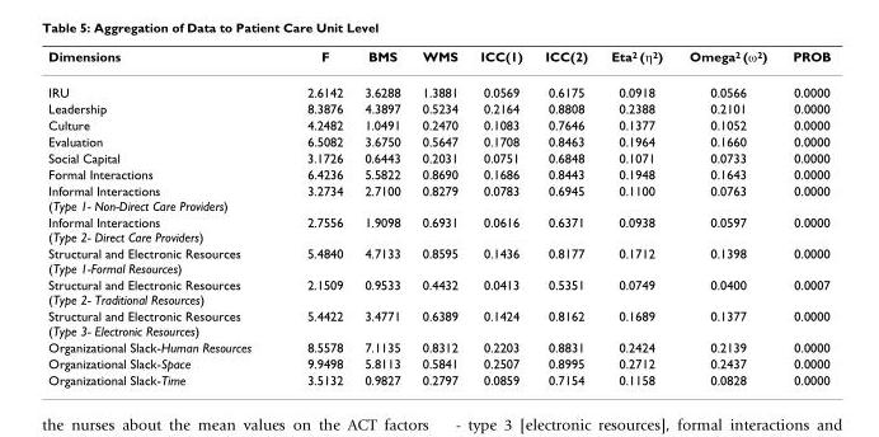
<table><thead><tr><td>Dimensions</td><td>F</td><td>BMS</td><td>WMS</td><td>ICC(1)</td><td>ICC(2)</td><td>Eta<sup>2</sup> (η<sup>2</sup>)</td><td>Omega<sup>2</sup> (ω<sup>2</sup>)</td><td>PROB</td></tr></thead><tbody><tr><td>IRU</td><td>2.6142</td><td>3.6288</td><td>1.3881</td><td>0.0569</td><td>0.6175</td><td>0.0918</td><td>0.0566</td><td>0.0000</td></tr><tr><td>Leadership</td><td>8.3876</td><td>4.3897</td><td>0.5234</td><td>0.2164</td><td>0.8808</td><td>0.2388</td><td>0.2101</td><td>0.0000</td></tr><tr><td>Culture</td><td>4.2482</td><td>1.0491</td><td>0.2470</td><td>0.1083</td><td>0.7646</td><td>0.1377</td><td>0.1052</td><td>0.0000</td></tr><tr><td>Evaluation</td><td>6.5082</td><td>3.6750</td><td>0.5647</td><td>0.1708</td><td>0.8463</td><td>0.1964</td><td>0.1660</td><td>0.0000</td></tr><tr><td>Social Capital</td><td>3.1726</td><td>0.6443</td><td>0.2031</td><td>0.0751</td><td>0.6848</td><td>0.1071</td><td>0.0733</td><td>0.0000</td></tr><tr><td>Formal Interactions</td><td>6.4236</td><td>5.5822</td><td>0.8690</td><td>0.1686</td><td>0.8443</td><td>0.1948</td><td>0.1643</td><td>0.0000</td></tr><tr><td>Informal Interactions (Type 1- Non-Direct Care Providers)</td><td>3.2734</td><td>2.7100</td><td>0.8279</td><td>0.0783</td><td>0.6945</td><td>0.1100</td><td>0.0763</td><td>0.0000</td></tr><tr><td>Informal Interactions (Type 2- Direct Care Providers)</td><td>2.7556</td><td>1.9098</td><td>0.6931</td><td>0.0616</td><td>0.6371</td><td>0.0938</td><td>0.0597</td><td>0.0000</td></tr><tr><td>Structural and Electronic Resources (Type 1-Formal Resources)</td><td>5.4840</td><td>4.7133</td><td>0.8595</td><td>0.1436</td><td>0.8177</td><td>0.1712</td><td>0.1398</td><td>0.0000</td></tr><tr><td>Structural and Electronic Resources (Type 2- Traditional Resources)</td><td>2.1509</td><td>0.9533</td><td>0.4432</td><td>0.0413</td><td>0.5351</td><td>0.0749</td><td>0.0400</td><td>0.0007</td></tr><tr><td>Structural and Electronic Resources (Type 3- Electronic Resources)</td><td>5.4422</td><td>3.4771</td><td>0.6389</td><td>0.1424</td><td>0.8162</td><td>0.1689</td><td>0.1377</td><td>0.0000</td></tr><tr><td>Organizational Slack-Human Resources</td><td>8.5578</td><td>7.1135</td><td>0.8312</td><td>0.2203</td><td>0.8831</td><td>0.2424</td><td>0.2139</td><td>0.0000</td></tr><tr><td>Organizational Slack-Space</td><td>9.9498</td><td>5.8113</td><td>0.5841</td><td>0.2507</td><td>0.8995</td><td>0.2712</td><td>0.2437</td><td>0.0000</td></tr><tr><td>Organizational Slack-Time</td><td>3.5132</td><td>0.9827</td><td>0.2797</td><td>0.0859</td><td>0.7154</td><td>0.1158</td><td>0.0828</td><td>0.0000</td></tr></tbody></table>